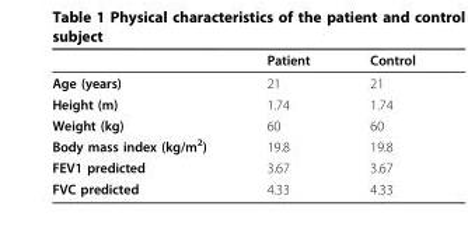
<table><thead><tr><td></td><td>Patient</td><td>Control</td></tr></thead><tbody><tr><td>Age (years)</td><td>21</td><td>21</td></tr><tr><td>Height (m)</td><td>1.74</td><td>1.74</td></tr><tr><td>Weight (kg)</td><td>60</td><td>60</td></tr><tr><td>Body mass index (kg/m<sup>2</sup>)</td><td>19.8</td><td>19.8</td></tr><tr><td>FEV1 predicted</td><td>3.67</td><td>3.67</td></tr><tr><td>FVC predicted</td><td>4.33</td><td>4.33</td></tr></tbody></table>